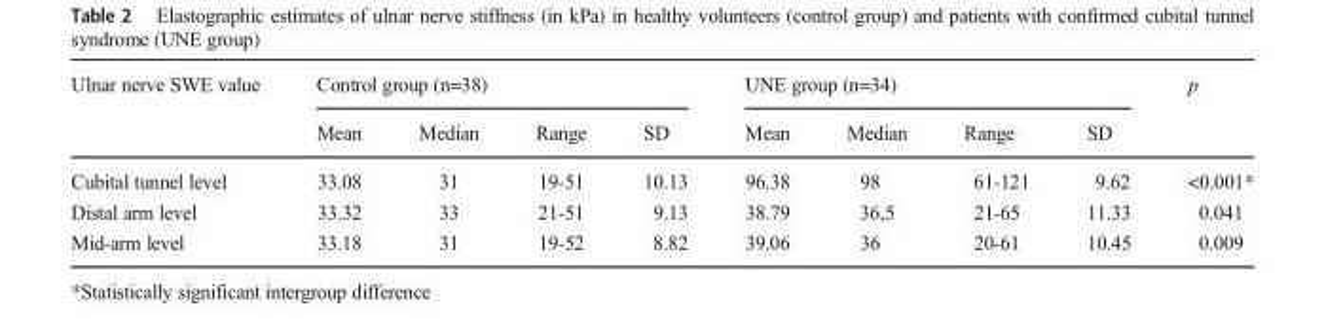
<table><thead><tr><td rowspan="2">Ulnar nerve SWE value</td><td colspan="4">Control group (n=38)</td><td colspan="4">UNE group (n=34)</td><td rowspan="2">p</td></tr><tr><td>Mean</td><td>Median</td><td>Range</td><td>SD</td><td>Mean</td><td>Median</td><td>Range</td><td>SD</td></tr></thead><tbody><tr><td>Cubital tunnel level</td><td>33.08</td><td>31</td><td>19-51</td><td>10.13</td><td>96.38</td><td>98</td><td>61-121</td><td>9.62</td><td>&lt;0.001*</td></tr><tr><td>Distal arm level</td><td>33.32</td><td>33</td><td>21-51</td><td>9.13</td><td>38.79</td><td>36,5</td><td>21-65</td><td>11.33</td><td>0.041</td></tr><tr><td>Mid-arm level</td><td>33.18</td><td>31</td><td>19-52</td><td>8.82</td><td>39.06</td><td>36</td><td>20-61</td><td>10.45</td><td>0.009</td></tr></tbody></table>